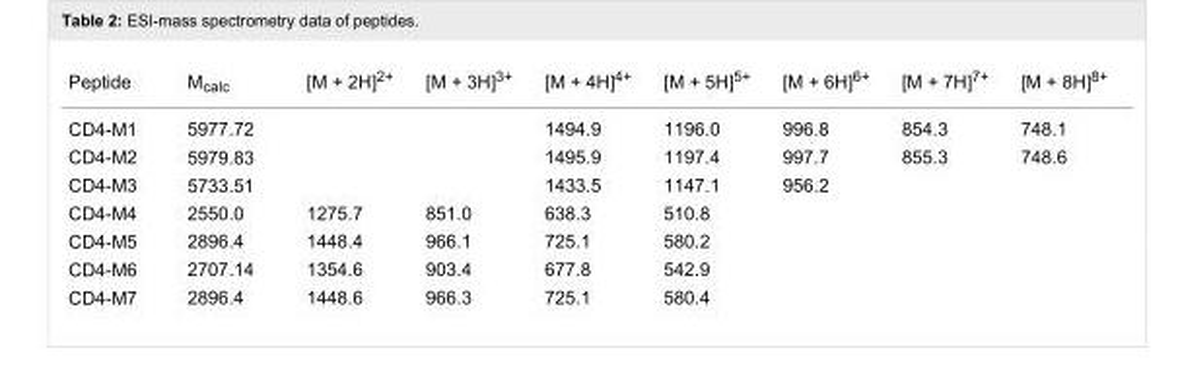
<table><tbody><tr><td>Peptide</td><td>M<sub>calc</sub></td><td>[M + 2H]<sup>2+</sup></td><td>[M + 3H]<sup>3+</sup></td><td>[M + 4H]<sup>4+</sup></td><td>[M + 5H]<sup>5+</sup></td><td>[M + 6H]<sup>6+</sup></td><td>[M + 7H]<sup>7+</sup></td><td>[M + 8H]<sup>8+</sup></td></tr><tr><td>CD4-M1</td><td>5977.72</td><td></td><td></td><td>1494.9</td><td>1196.0</td><td>996.8</td><td>854.3</td><td>748.1</td></tr><tr><td>CD4-M2</td><td>5979.83</td><td></td><td></td><td>1495.9</td><td>1197.4</td><td>997.7</td><td>855.3</td><td>748.6</td></tr><tr><td>CD4-M3</td><td>5733.51</td><td></td><td></td><td>1433.5</td><td>1147.1</td><td>956.2</td><td></td><td></td></tr><tr><td>CD4-M4</td><td>2550.0</td><td>1275.7</td><td>851.0</td><td>638.3</td><td>510.8</td><td></td><td></td><td></td></tr><tr><td>CD4-M5</td><td>2896.4</td><td>1448.4</td><td>966.1</td><td>725.1</td><td>580.2</td><td></td><td></td><td></td></tr><tr><td>CD4-M6</td><td>2707.14</td><td>1354.6</td><td>903.4</td><td>677.8</td><td>542.9</td><td></td><td></td><td></td></tr><tr><td>CD4-M7</td><td>2896.4</td><td>1448.6</td><td>966.3</td><td>725.1</td><td>580.4</td><td></td><td></td><td></td></tr></tbody></table>